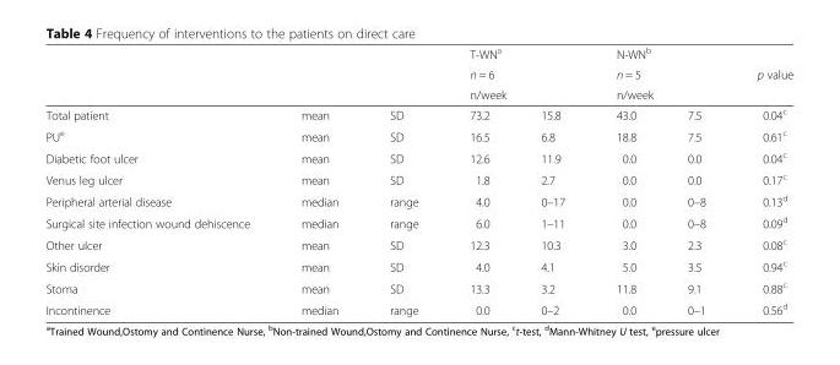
<table><thead><tr><td rowspan="4">Total patient</td><td rowspan="4">mean</td><td rowspan="4">SD</td><td rowspan="3" colspan="2">T-WN<sup>a</sup> n = 6 n/week</td><td rowspan="3" colspan="2">N-WN<sup>b</sup> n = 5 n/week</td><td rowspan="4">p value 0.04<sup>c</sup></td></tr><tr></tr><tr></tr><tr><td>73.2</td><td>15.8</td><td>43.0</td><td>7.5</td></tr></thead><tbody><tr><td>PU<sup>e</sup></td><td>mean</td><td>SD</td><td>16.5</td><td>6.8</td><td>18.8</td><td>7.5</td><td>0.61<sup>c</sup></td></tr><tr><td>Diabetic foot ulcer</td><td>mean</td><td>SD</td><td>12.6</td><td>11.9</td><td>0.0</td><td>0.0</td><td>0.04<sup>c</sup></td></tr><tr><td>Venus leg ulcer</td><td>mean</td><td>SD</td><td>1.8</td><td>2.7</td><td>0.0</td><td>0.0</td><td>0.17<sup>c</sup></td></tr><tr><td>Peripheral arterial disease</td><td>median</td><td>range</td><td>4.0</td><td>0–17</td><td>0.0</td><td>0–8</td><td>0.13<sup>d</sup></td></tr><tr><td>Surgical site infection wound dehiscence</td><td>median</td><td>range</td><td>6.0</td><td>1–11</td><td>0.0</td><td>0–8</td><td>0.09<sup>d</sup></td></tr><tr><td>Other ulcer</td><td>mean</td><td>SD</td><td>12.3</td><td>10.3</td><td>3.0</td><td>2.3</td><td>0.08<sup>c</sup></td></tr><tr><td>Skin disorder</td><td>mean</td><td>SD</td><td>4.0</td><td>4.1</td><td>5.0</td><td>3.5</td><td>0.94<sup>c</sup></td></tr><tr><td>Stoma</td><td>mean</td><td>SD</td><td>13.3</td><td>3.2</td><td>11.8</td><td>9.1</td><td>0.88<sup>c</sup></td></tr><tr><td>Incontinence</td><td>median</td><td>range</td><td>0.0</td><td>0–2</td><td>0.0</td><td>0–1</td><td>0.56<sup>d</sup></td></tr></tbody></table>